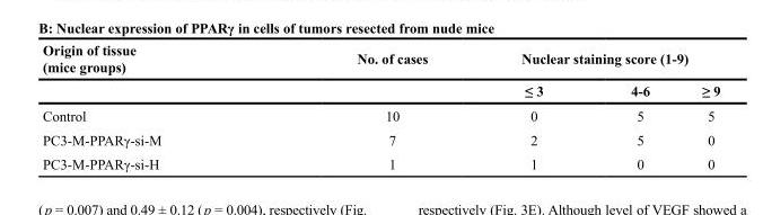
<table><thead><tr><td rowspan="2">Origin of tissue (mice groups)</td><td rowspan="2">No. of cases</td><td colspan="3">Nuclear staining score (1-9)</td></tr><tr><td>≤ 3</td><td>4-6</td><td>≥ 9</td></tr></thead><tbody><tr><td>Control</td><td>10</td><td>0</td><td>5</td><td>5</td></tr><tr><td>PC3-M-PPARγ-si-M</td><td>7</td><td>2</td><td>5</td><td>0</td></tr><tr><td>PC3-M-PPARγ-si-H</td><td>1</td><td>1</td><td>0</td><td>0</td></tr></tbody></table>